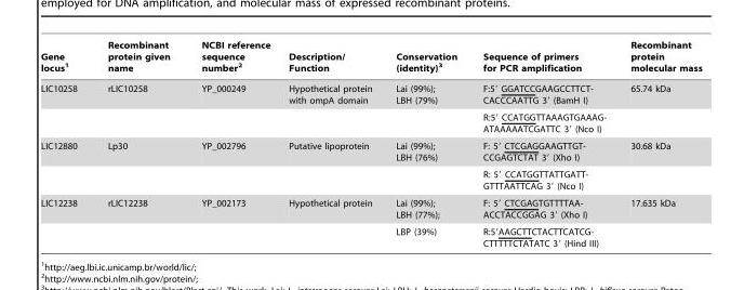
<table><thead><tr><td>Gene locus<sup>1</sup></td><td>Recombinant protein given name</td><td>NCBI reference sequence number<sup>2</sup></td><td>Description/ Function</td><td>Conservation (identity)<sup>3</sup></td><td>Sequence of primers for PCR amplification</td><td>Recombinant protein molecular mass</td></tr></thead><tbody><tr><td rowspan="2">LIC10258</td><td>rLIC10258</td><td>YP_000249</td><td>Hypothetical protein with ompA domain</td><td>Lai (99%); LBH (79%)</td><td>F:59 GGATCCGAAGCCTTCT- CACCCAATTG 39 (BamH I)</td><td>65.74 kDa</td></tr><tr><td></td><td></td><td></td><td></td><td>R:59 CCATGGTTAAAGTGAAAG- ATAAAAATCGATTC 39 (Nco I)</td><td></td></tr><tr><td rowspan="2">LIC12880</td><td>Lp30</td><td>YP_002796</td><td>Putative lipoprotein</td><td>Lai (99%); LBH (76%)</td><td>F: 59 CTCGAGGAAGTTGT- CCGAGTCTAT 39 (Xho I)</td><td>30.68 kDa</td></tr><tr><td></td><td></td><td></td><td></td><td>R: 59 CCATGGTTATTGATT- GTTTAATTCAG 39 (Nco I)</td><td></td></tr><tr><td rowspan="2">LIC12238</td><td>rLIC12238</td><td>YP_002173</td><td>Hypothetical protein</td><td>Lai (99%); LBH (77%);</td><td>F: 59 CTCGAGTGTTTTAA- ACCTACCGGAG 39 (Xho I)</td><td>17.635 kDa</td></tr><tr><td></td><td></td><td></td><td>LBP (39%)</td><td>R:59AAGCTTCTACTTCATCG- CTTTTTCTATATC 39 (Hind III)</td><td></td></tr></tbody></table>